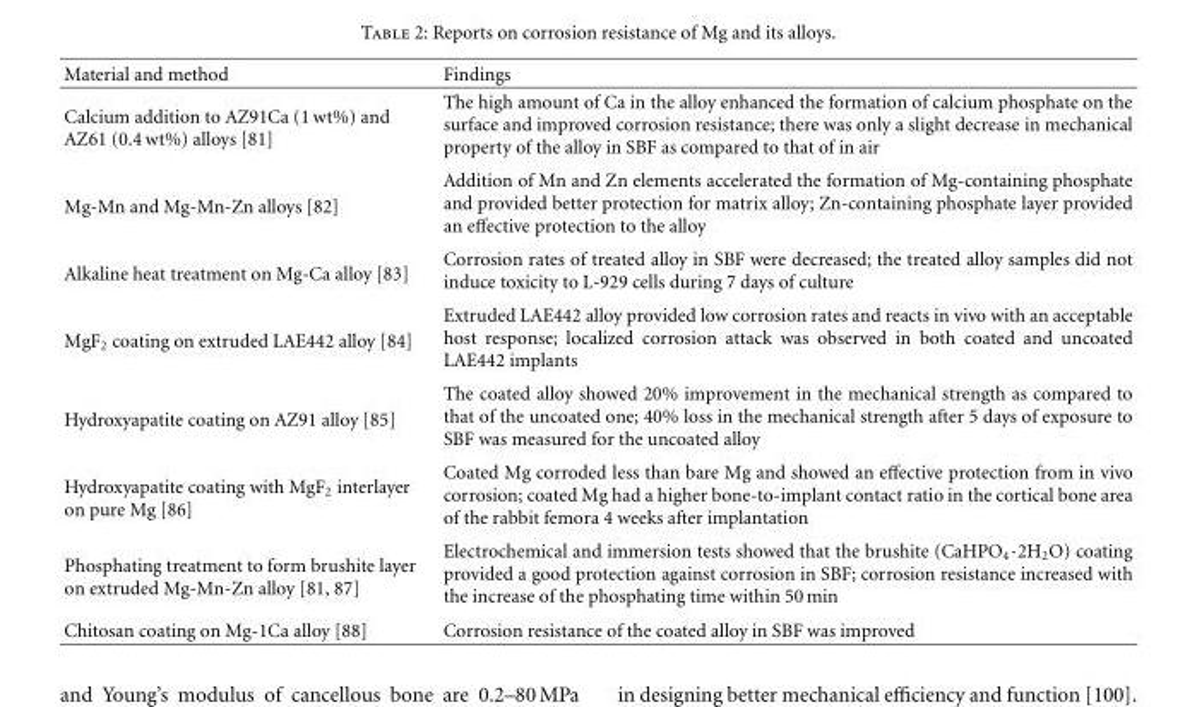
<table><thead><tr><td>Material and method</td><td>Findings</td></tr></thead><tbody><tr><td>Calcium addition to AZ91Ca (1 wt%) and AZ61 (0.4 wt%) alloys [81]</td><td>The high amount of Ca in the alloy enhanced the formation of calcium phosphate on the surface and improved corrosion resistance; there was only a slight decrease in mechanical property of the alloy in SBF as compared to that of in air</td></tr><tr><td>Mg-Mn and Mg-Mn-Zn alloys [82]</td><td>Addition of Mn and Zn elements accelerated the formation of Mg-containing phosphate and provided better protection for matrix alloy; Zn-containing phosphate layer provided an effective protection to the alloy</td></tr><tr><td>Alkaline heat treatment on Mg-Ca alloy [83]</td><td>Corrosion rates of treated alloy in SBF were decreased; the treated alloy samples did not induce toxicity to L-929 cells during 7 days of culture</td></tr><tr><td>MgF<sub>2</sub> coating on extruded LAE442 alloy [84]</td><td>Extruded LAE442 alloy provided low corrosion rates and reacts in vivo with an acceptable host response; localized corrosion attack was observed in both coated and uncoated LAE442 implants</td></tr><tr><td>Hydroxyapatite coating on AZ91 alloy [85]</td><td>The coated alloy showed 20% improvement in the mechanical strength as compared to that of the uncoated one; 40% loss in the mechanical strength after 5 days of exposure to SBF was measured for the uncoated alloy</td></tr><tr><td>Hydroxyapatite coating with MgF<sub>2</sub> interlayer on pure Mg [86]</td><td>Coated Mg corroded less than bare Mg and showed an effective protection from in vivo corrosion; coated Mg had a higher bone-to-implant contact ratio in the cortical bone area of the rabbit femora 4 weeks after implantation</td></tr><tr><td>Phosphating treatment to form brushite layer on extruded Mg-Mn-Zn alloy [81, 87]</td><td>Electrochemical and immersion tests showed that the brushite (CaHPO<sub>4</sub>·2H<sub>2</sub>O) coating provided a good protection against corrosion in SBF; corrosion resistance increased with the increase of the phosphating time within 50 min</td></tr><tr><td>Chitosan coating on Mg-1Ca alloy [88]</td><td>Corrosion resistance of the coated alloy in SBF was improved</td></tr></tbody></table>